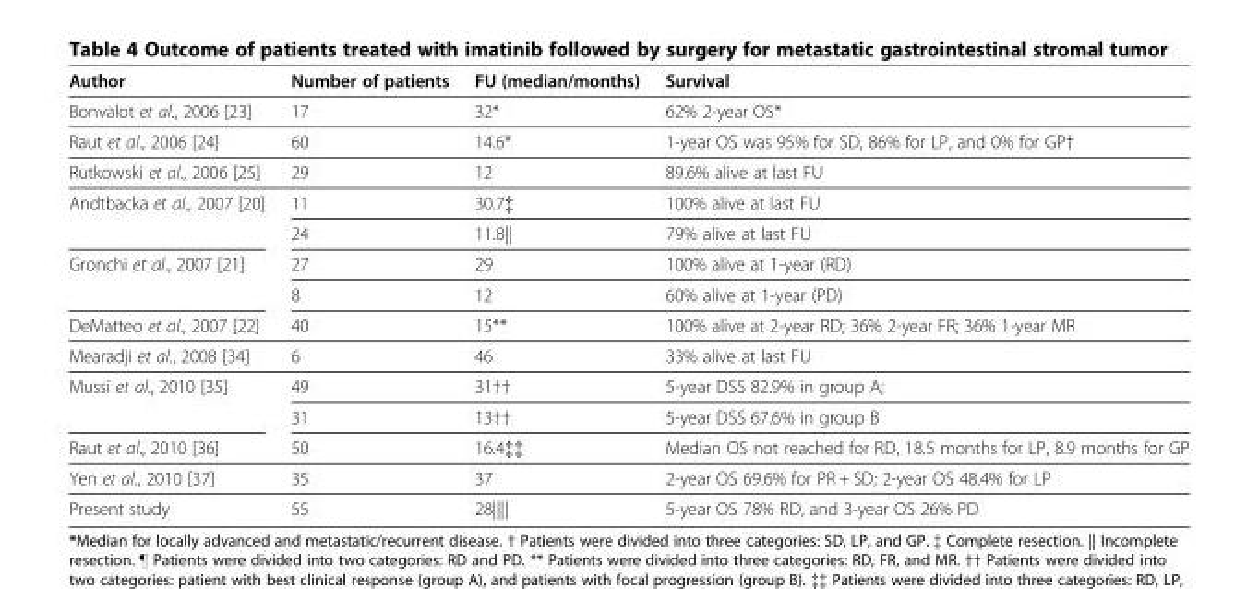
<table><thead><tr><td>Author</td><td>Number of patients</td><td>FU (median/months)</td><td>Survival</td></tr></thead><tbody><tr><td>Bonvalot et al., 2006 [23]</td><td>17</td><td>32*</td><td>62% 2-year OS*</td></tr><tr><td>Raut et al., 2006 [24]</td><td>60</td><td>14.6*</td><td>1-year OS was 95% for SD, 86% for LP, and 0% for GP†</td></tr><tr><td>Rutkowski et al., 2006 [25]</td><td>29</td><td>12</td><td>89.6% alive at last FU</td></tr><tr><td rowspan="2">Andtbacka et al., 2007 [20]</td><td>11</td><td>30.7‡</td><td>100% alive at last FU</td></tr><tr><td>24</td><td>11.8||</td><td>79% alive at last FU</td></tr><tr><td rowspan="2">Gronchi et al., 2007 [21]</td><td>27</td><td>29</td><td>100% alive at 1-year (RD)</td></tr><tr><td>8</td><td>12</td><td>60% alive at 1-year (PD)</td></tr><tr><td>DeMatteo et al., 2007 [22]</td><td>40</td><td>15**</td><td>100% alive at 2-year RD; 36% 2-year FR; 36% 1-year MR</td></tr><tr><td>Mearadji et al., 2008 [34]</td><td>6</td><td>46</td><td>33% alive at last FU</td></tr><tr><td rowspan="2">Mussi et al., 2010 [35]</td><td>49</td><td>31††</td><td>5-year DSS 82.9% in group A;</td></tr><tr><td>31</td><td>13††</td><td>5-year DSS 67.6% in group B</td></tr><tr><td>Raut et al., 2010 [36]</td><td>50</td><td>16.4‡‡</td><td>Median OS not reached for RD, 18.5 months for LP, 8.9 months for GP</td></tr><tr><td>Yen et al., 2010 [37]</td><td>35</td><td>37</td><td>2-year OS 69.6% for PR + SD; 2-year OS 48.4% for LP</td></tr><tr><td>Present study</td><td>55</td><td>28||||</td><td>5-year OS 78% RD, and 3-year OS 26% PD</td></tr></tbody></table>